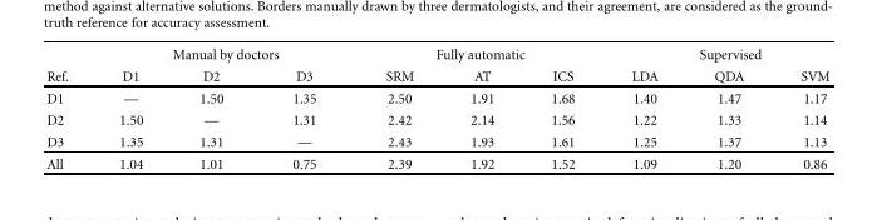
<table><thead><tr><td rowspan="2">Ref.</td><td colspan="3">Manual by doctors</td><td colspan="3">Fully automatic</td><td colspan="3">Supervised</td></tr><tr><td>D1</td><td>D2</td><td>D3</td><td>SRM</td><td>AT</td><td>ICS</td><td>LDA</td><td>QDA</td><td>SVM</td></tr></thead><tbody><tr><td>D1</td><td>—</td><td>1.50</td><td>1.35</td><td>2.50</td><td>1.91</td><td>1.68</td><td>1.40</td><td>1.47</td><td>1.17</td></tr><tr><td>D2</td><td>1.50</td><td>—</td><td>1.31</td><td>2.42</td><td>2.14</td><td>1.56</td><td>1.22</td><td>1.33</td><td>1.14</td></tr><tr><td>D3</td><td>1.35</td><td>1.31</td><td>—</td><td>2.43</td><td>1.93</td><td>1.61</td><td>1.25</td><td>1.37</td><td>1.13</td></tr><tr><td>All</td><td>1.04</td><td>1.01</td><td>0.75</td><td>2.39</td><td>1.92</td><td>1.52</td><td>1.09</td><td>1.20</td><td>0.86</td></tr></tbody></table>